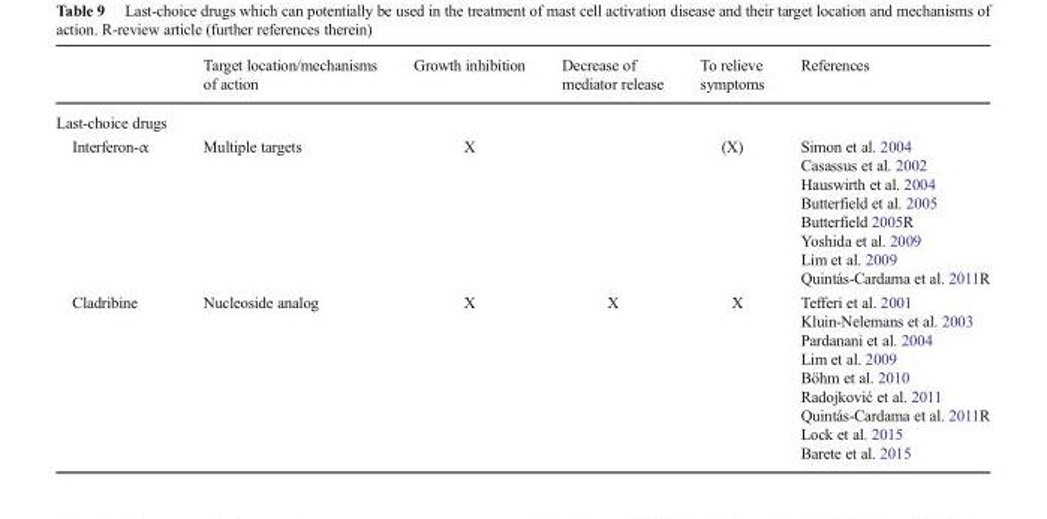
<table><thead><tr><td></td><td>Target location/mechanisms of action</td><td>Growth inhibition</td><td>Decrease of mediator release</td><td>To relieve symptoms</td><td>References</td></tr></thead><tbody><tr><td colspan="6">Last-choice drugs</td></tr><tr><td>Interferon-α</td><td>Multiple targets</td><td>X</td><td></td><td>(X)</td><td>Simon et al. 2004 Casassus et al. 2002 Hauswirth et al. 2004 Butterfield et al. 2005 Butterfield 2005R Yoshida et al. 2009 Lim et al. 2009 Quintás-Cardama et al. 2011R</td></tr><tr><td>Cladribine</td><td>Nucleoside analog</td><td>X</td><td>X</td><td>X</td><td>Tefferi et al. 2001 Kluin-Nelemans et al. 2003 Pardanani et al. 2004 Lim et al. 2009 Böhm et al. 2010 Radojković et al. 2011 Quintás-Cardama et al. 2011R Lock et al. 2015 Barete et al. 2015</td></tr></tbody></table>